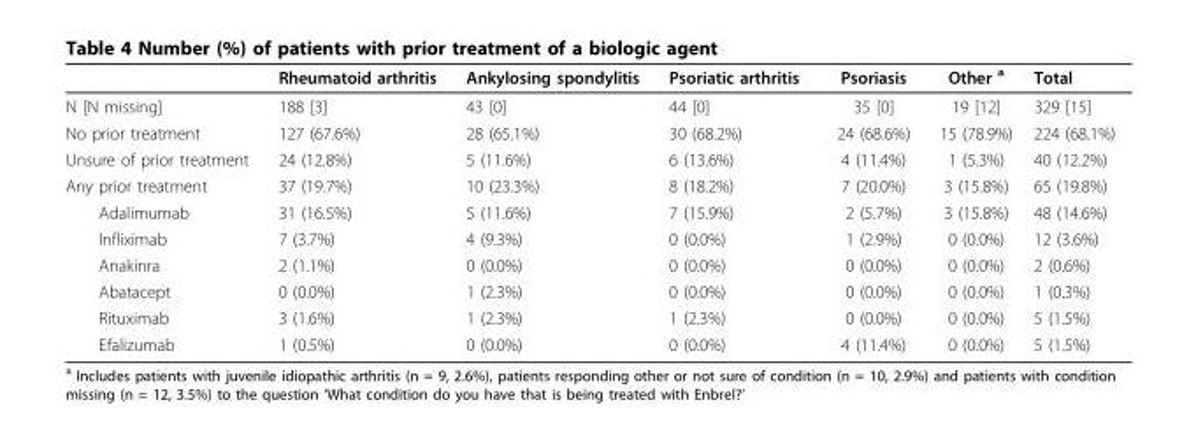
<table><thead><tr><td></td><td>Rheumatoid arthritis</td><td>Ankylosing spondylitis</td><td>Psoriatic arthritis</td><td>Psoriasis</td><td>Other <sup>a</sup></td><td>Total</td></tr></thead><tbody><tr><td>N [N missing]</td><td>188 [3]</td><td>43 [0]</td><td>44 [0]</td><td>35 [0]</td><td>19 [12]</td><td>329 [15]</td></tr><tr><td>No prior treatment</td><td>127 (67.6%)</td><td>28 (65.1%)</td><td>30 (68.2%)</td><td>24 (68.6%)</td><td>15 (78.9%)</td><td>224 (68.1%)</td></tr><tr><td>Unsure of prior treatment</td><td>24 (12.8%)</td><td>5 (11.6%)</td><td>6 (13.6%)</td><td>4 (11.4%)</td><td>1 (5.3%)</td><td>40 (12.2%)</td></tr><tr><td>Any prior treatment</td><td>37 (19.7%)</td><td>10 (23.3%)</td><td>8 (18.2%)</td><td>7 (20.0%)</td><td>3 (15.8%)</td><td>65 (19.8%)</td></tr><tr><td>Adalimumab</td><td>31 (16.5%)</td><td>5 (11.6%)</td><td>7 (15.9%)</td><td>2 (5.7%)</td><td>3 (15.8%)</td><td>48 (14.6%)</td></tr><tr><td>Infliximab</td><td>7 (3.7%)</td><td>4 (9.3%)</td><td>0 (0.0%)</td><td>1 (2.9%)</td><td>0 (0.0%)</td><td>12 (3.6%)</td></tr><tr><td>Anakinra</td><td>2 (1.1%)</td><td>0 (0.0%)</td><td>0 (0.0%)</td><td>0 (0.0%)</td><td>0 (0.0%)</td><td>2 (0.6%)</td></tr><tr><td>Abatacept</td><td>0 (0.0%)</td><td>1 (2.3%)</td><td>0 (0.0%)</td><td>0 (0.0%)</td><td>0 (0.0%)</td><td>1 (0.3%)</td></tr><tr><td>Rituximab</td><td>3 (1.6%)</td><td>1 (2.3%)</td><td>1 (2.3%)</td><td>0 (0.0%)</td><td>0 (0.0%)</td><td>5 (1.5%)</td></tr><tr><td>Efalizumab</td><td>1 (0.5%)</td><td>0 (0.0%)</td><td>0 (0.0%)</td><td>4 (11.4%)</td><td>0 (0.0%)</td><td>5 (1.5%)</td></tr></tbody></table>